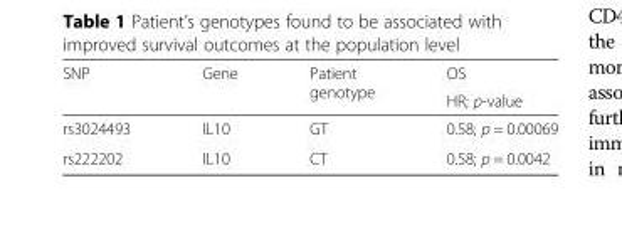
<table><thead><tr><td rowspan="2">SNP</td><td rowspan="2">Gene</td><td rowspan="2">Patient genotype</td><td rowspan="2">OS HR; p-value</td></tr><tr></tr></thead><tbody><tr><td>rs3024493</td><td>IL10</td><td>GT</td><td>0.58; p = 0.00069</td></tr><tr><td>rs222202</td><td>IL10</td><td>CT</td><td>0.58; p = 0.0042</td></tr></tbody></table>